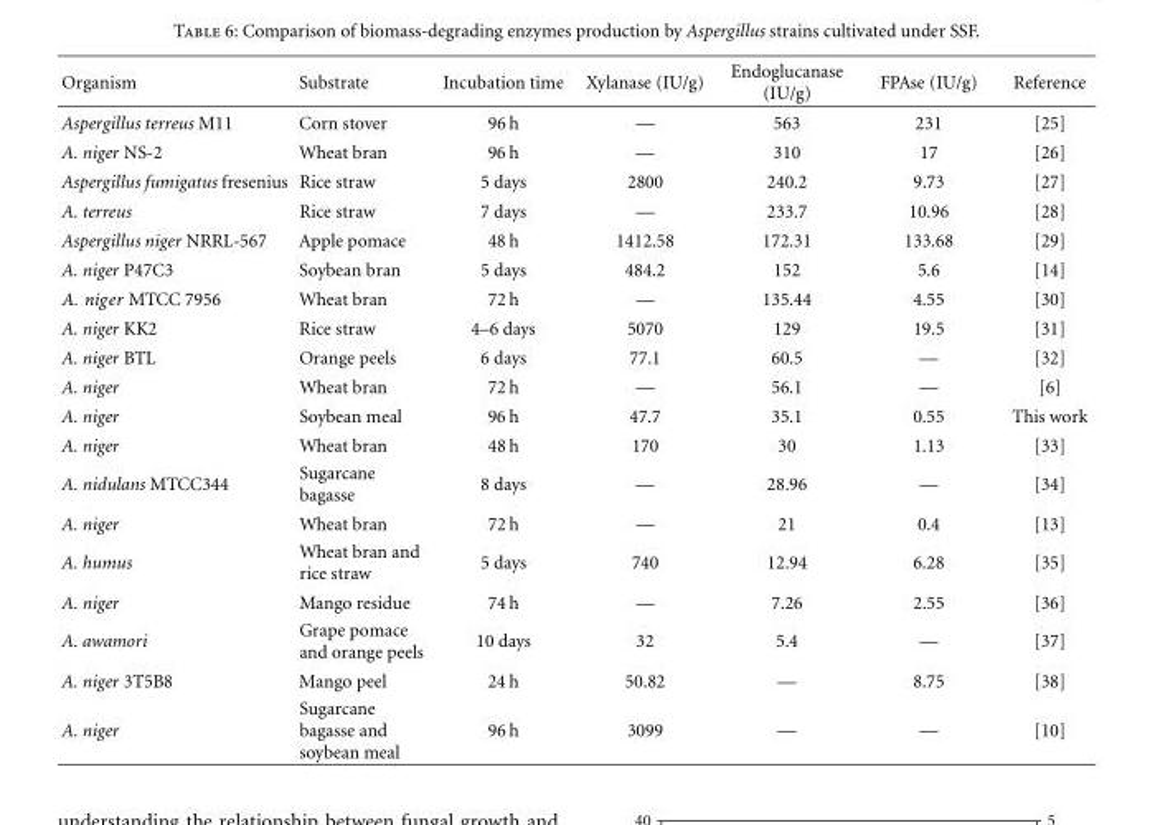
<table><thead><tr><td>Organism</td><td>Substrate</td><td>Incubation time</td><td>Xylanase (IU/g)</td><td>Endoglucanase (IU/g)</td><td>FPAse (IU/g)</td><td>Reference</td></tr></thead><tbody><tr><td>Aspergillus terreus M11</td><td>Corn stover</td><td>96 h</td><td>—</td><td>563</td><td>231</td><td>[25]</td></tr><tr><td>A. niger NS-2</td><td>Wheat bran</td><td>96 h</td><td>—</td><td>310</td><td>17</td><td>[26]</td></tr><tr><td>Aspergillus fumigatus fresenius</td><td>Rice straw</td><td>5 days</td><td>2800</td><td>240.2</td><td>9.73</td><td>[27]</td></tr><tr><td>A. terreus</td><td>Rice straw</td><td>7 days</td><td>—</td><td>233.7</td><td>10.96</td><td>[28]</td></tr><tr><td>Aspergillus niger NRRL-567</td><td>Apple pomace</td><td>48 h</td><td>1412.58</td><td>172.31</td><td>133.68</td><td>[29]</td></tr><tr><td>A. niger P47C3</td><td>Soybean bran</td><td>5 days</td><td>484.2</td><td>152</td><td>5.6</td><td>[14]</td></tr><tr><td>A. niger MTCC 7956</td><td>Wheat bran</td><td>72 h</td><td>—</td><td>135.44</td><td>4.55</td><td>[30]</td></tr><tr><td>A. niger KK2</td><td>Rice straw</td><td>4–6 days</td><td>5070</td><td>129</td><td>19.5</td><td>[31]</td></tr><tr><td>A. niger BTL</td><td>Orange peels</td><td>6 days</td><td>77.1</td><td>60.5</td><td>—</td><td>[32]</td></tr><tr><td>A. niger</td><td>Wheat bran</td><td>72 h</td><td>—</td><td>56.1</td><td>—</td><td>[6]</td></tr><tr><td>A. niger</td><td>Soybean meal</td><td>96 h</td><td>47.7</td><td>35.1</td><td>0.55</td><td>This work</td></tr><tr><td>A. niger</td><td>Wheat bran</td><td>48 h</td><td>170</td><td>30</td><td>1.13</td><td>[33]</td></tr><tr><td>A. nidulans MTCC344</td><td>Sugarcane bagasse</td><td>8 days</td><td>—</td><td>28.96</td><td>—</td><td>[34]</td></tr><tr><td>A. niger</td><td>Wheat bran</td><td>72 h</td><td>—</td><td>21</td><td>0.4</td><td>[13]</td></tr><tr><td>A. humus</td><td>Wheat bran and rice straw</td><td>5 days</td><td>740</td><td>12.94</td><td>6.28</td><td>[35]</td></tr><tr><td>A. niger</td><td>Mango residue</td><td>74 h</td><td>—</td><td>7.26</td><td>2.55</td><td>[36]</td></tr><tr><td>A. awamori</td><td>Grape pomace and orange peels</td><td>10 days</td><td>32</td><td>5.4</td><td>—</td><td>[37]</td></tr><tr><td>A. niger 3T5B8</td><td>Mango peel</td><td>24 h</td><td>50.82</td><td>—</td><td>8.75</td><td>[38]</td></tr><tr><td>A. niger</td><td>Sugarcane bagasse and soybean meal</td><td>96 h</td><td>3099</td><td>—</td><td>—</td><td>[10]</td></tr></tbody></table>